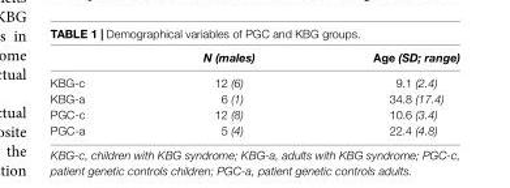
<table><thead><tr><td></td><td>N (males)</td><td>Age (SD; range)</td></tr></thead><tbody><tr><td>KBG-c</td><td>12 (6)</td><td>9.1 (2.4)</td></tr><tr><td>KBG-a</td><td>6 (1)</td><td>34.8 (17.4)</td></tr><tr><td>PGC-c</td><td>12 (8)</td><td>10.6 (3.4)</td></tr><tr><td>PGC-a</td><td>5 (4)</td><td>22.4 (4.8)</td></tr></tbody></table>